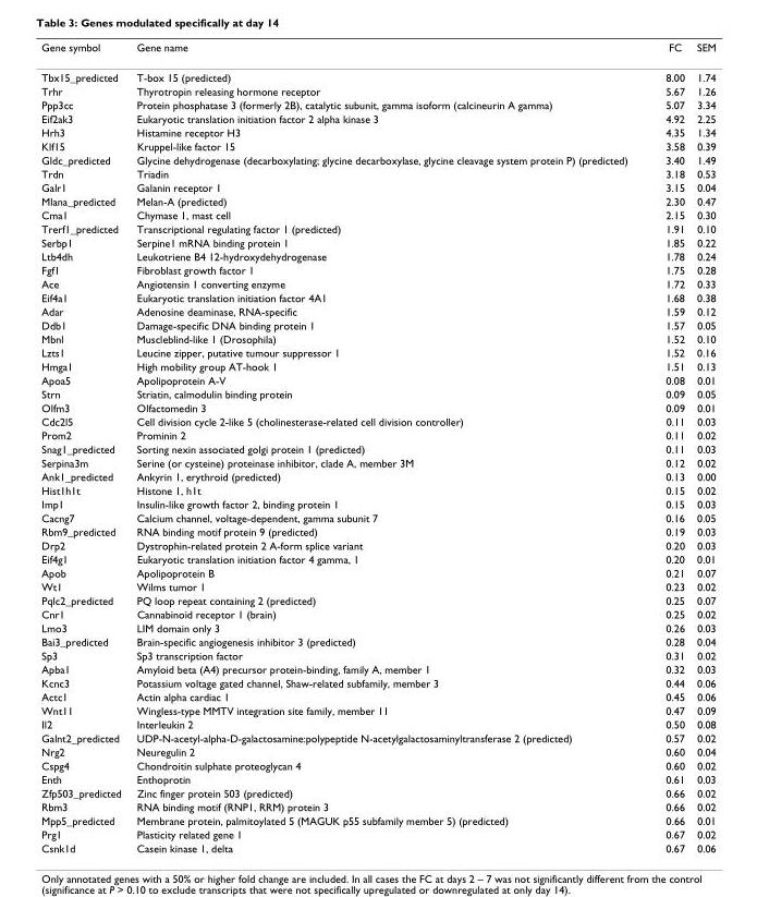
<table><thead><tr><td>Gene symbol</td><td>Gene name</td><td>FC</td><td>SEM</td></tr></thead><tbody><tr><td>Tbx15_predicted</td><td>T-box 15 (predicted)</td><td>8.00</td><td>1.74</td></tr><tr><td>Trhr</td><td>Thyrotropin releasing hormone receptor</td><td>5.67</td><td>1.26</td></tr><tr><td>Ppp3cc</td><td>Protein phosphatase 3 (formerly 2B), catalytic subunit, gamma isoform (calcineurin A gamma)</td><td>5.07</td><td>3.34</td></tr><tr><td>Eif2ak3</td><td>Eukaryotic translation initiation factor 2 alpha kinase 3</td><td>4.92</td><td>2.25</td></tr><tr><td>Hrh3</td><td>Histamine receptor H3</td><td>4.35</td><td>1.34</td></tr><tr><td>Klf15</td><td>Kruppel-like factor 15</td><td>3.58</td><td>0.39</td></tr><tr><td>Gldc_predicted</td><td>Glycine dehydrogenase (decarboxylating; glycine decarboxylase, glycine cleavage system protein P) (predicted)</td><td>3.40</td><td>1.49</td></tr><tr><td>Trdn</td><td>Triadin</td><td>3.18</td><td>0.53</td></tr><tr><td>Galr1</td><td>Galanin receptor 1</td><td>3.15</td><td>0.04</td></tr><tr><td>Mlana_predicted</td><td>Melan-A (predicted)</td><td>2.30</td><td>0.47</td></tr><tr><td>Cma1</td><td>Chymase 1, mast cell</td><td>2.15</td><td>0.30</td></tr><tr><td>Trerf1_predicted</td><td>Transcriptional regulating factor 1 (predicted)</td><td>1.91</td><td>0.10</td></tr><tr><td>Serbp1</td><td>Serpine1 mRNA binding protein 1</td><td>1.85</td><td>0.22</td></tr><tr><td>Ltb4dh</td><td>Leukotriene B4 12-hydroxydehydrogenase</td><td>1.78</td><td>0.24</td></tr><tr><td>Fgf1</td><td>Fibroblast growth factor 1</td><td>1.75</td><td>0.28</td></tr><tr><td>Ace</td><td>Angiotensin 1 converting enzyme</td><td>1.72</td><td>0.33</td></tr><tr><td>Eif4a1</td><td>Eukaryotic translation initiation factor 4A1</td><td>1.68</td><td>0.38</td></tr><tr><td>Adar</td><td>Adenosine deaminase, RNA-specific</td><td>1.59</td><td>0.12</td></tr><tr><td>Ddb1</td><td>Damage-specific DNA binding protein 1</td><td>1.57</td><td>0.05</td></tr><tr><td>Mbnl</td><td>Muscleblind-like 1 (Drosophila)</td><td>1.52</td><td>0.10</td></tr><tr><td>Lzts1</td><td>Leucine zipper, putative tumour suppressor 1</td><td>1.52</td><td>0.16</td></tr><tr><td>Hmga1</td><td>High mobility group AT-hook 1</td><td>1.51</td><td>0.13</td></tr><tr><td>Apoa5</td><td>Apolipoprotein A-V</td><td>0.08</td><td>0.01</td></tr><tr><td>Strn</td><td>Striatin, calmodulin binding protein</td><td>0.09</td><td>0.05</td></tr><tr><td>Olfm3</td><td>Olfactomedin 3</td><td>0.09</td><td>0.01</td></tr><tr><td>Cdc2l5</td><td>Cell division cycle 2-like 5 (cholinesterase-related cell division controller)</td><td>0.11</td><td>0.03</td></tr><tr><td>Prom2</td><td>Prominin 2</td><td>0.11</td><td>0.02</td></tr><tr><td>Snag1_predicted</td><td>Sorting nexin associated golgi protein 1 (predicted)</td><td>0.11</td><td>0.03</td></tr><tr><td>Serpina3m</td><td>Serine (or cysteine) proteinase inhibitor, clade A, member 3M</td><td>0.12</td><td>0.02</td></tr><tr><td>Ank1_predicted</td><td>Ankyrin 1, erythroid (predicted)</td><td>0.13</td><td>0.00</td></tr><tr><td>Hist1h1t</td><td>Histone 1, h1t</td><td>0.15</td><td>0.02</td></tr><tr><td>Imp1</td><td>Insulin-like growth factor 2, binding protein 1</td><td>0.15</td><td>0.03</td></tr><tr><td>Cacng7</td><td>Calcium channel, voltage-dependent, gamma subunit 7</td><td>0.16</td><td>0.05</td></tr><tr><td>Rbm9_predicted</td><td>RNA binding motif protein 9 (predicted)</td><td>0.19</td><td>0.03</td></tr><tr><td>Drp2</td><td>Dystrophin-related protein 2 A-form splice variant</td><td>0.20</td><td>0.03</td></tr><tr><td>Eif4g1</td><td>Eukaryotic translation initiation factor 4 gamma, 1</td><td>0.20</td><td>0.01</td></tr><tr><td>Apob</td><td>Apolipoprotein B</td><td>0.21</td><td>0.07</td></tr><tr><td>Wt1</td><td>Wilms tumor 1</td><td>0.23</td><td>0.02</td></tr><tr><td>Pqlc2_predicted</td><td>PQ loop repeat containing 2 (predicted)</td><td>0.25</td><td>0.07</td></tr><tr><td>Cnr1</td><td>Cannabinoid receptor 1 (brain)</td><td>0.25</td><td>0.02</td></tr><tr><td>Lmo3</td><td>LIM domain only 3</td><td>0.26</td><td>0.03</td></tr><tr><td>Bai3_predicted</td><td>Brain-specific angiogenesis inhibitor 3 (predicted)</td><td>0.28</td><td>0.04</td></tr><tr><td>Sp3</td><td>Sp3 transcription factor</td><td>0.31</td><td>0.02</td></tr><tr><td>Apba1</td><td>Amyloid beta (A4) precursor protein-binding, family A, member 1</td><td>0.32</td><td>0.03</td></tr><tr><td>Kcnc3</td><td>Potassium voltage gated channel, Shaw-related subfamily, member 3</td><td>0.44</td><td>0.06</td></tr><tr><td>Actc1</td><td>Actin alpha cardiac 1</td><td>0.45</td><td>0.06</td></tr><tr><td>Wnt11</td><td>Wingless-type MMTV integration site family, member 11</td><td>0.47</td><td>0.09</td></tr><tr><td>Il2</td><td>Interleukin 2</td><td>0.50</td><td>0.08</td></tr><tr><td>Galnt2_predicted</td><td>UDP-N-acetyl-alpha-D-galactosamine:polypeptide N-acetylgalactosaminyltransferase 2 (predicted)</td><td>0.57</td><td>0.02</td></tr><tr><td>Nrg2</td><td>Neuregulin 2</td><td>0.60</td><td>0.04</td></tr><tr><td>Cspg4</td><td>Chondroitin sulphate proteoglycan 4</td><td>0.60</td><td>0.02</td></tr><tr><td>Enth</td><td>Enthoprotin</td><td>0.61</td><td>0.03</td></tr><tr><td>Zfp503_predicted</td><td>Zinc finger protein 503 (predicted)</td><td>0.66</td><td>0.02</td></tr><tr><td>Rbm3</td><td>RNA binding motif (RNP1, RRM) protein 3</td><td>0.66</td><td>0.02</td></tr><tr><td>Mpp5_predicted</td><td>Membrane protein, palmitoylated 5 (MAGUK p55 subfamily member 5) (predicted)</td><td>0.66</td><td>0.01</td></tr><tr><td>Prg1</td><td>Plasticity related gene 1</td><td>0.67</td><td>0.02</td></tr><tr><td>Csnk1d</td><td>Casein kinase 1, delta</td><td>0.67</td><td>0.06</td></tr></tbody></table>